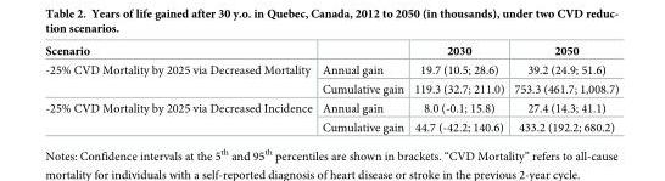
<table><thead><tr><td>Scenario</td><td></td><td>2030</td><td>2050</td></tr></thead><tbody><tr><td rowspan="2">-25% CVD Mortality by 2025 via Decreased Mortality</td><td>Annual gain</td><td>19.7 (10.5; 28.6)</td><td>39.2 (24.9; 51.6)</td></tr><tr><td>Cumulative gain</td><td>119.3 (32.7; 211.0)</td><td>753.3 (461.7; 1,008.7)</td></tr><tr><td rowspan="2">-25% CVD Mortality by 2025 via Decreased Incidence</td><td>Annual gain</td><td>8.0 (-0.1; 15.8)</td><td>27.4 (14.3; 41.1)</td></tr><tr><td>Cumulative gain</td><td>44.7 (-42.2; 140.6)</td><td>433.2 (192.2; 680.2)</td></tr></tbody></table>